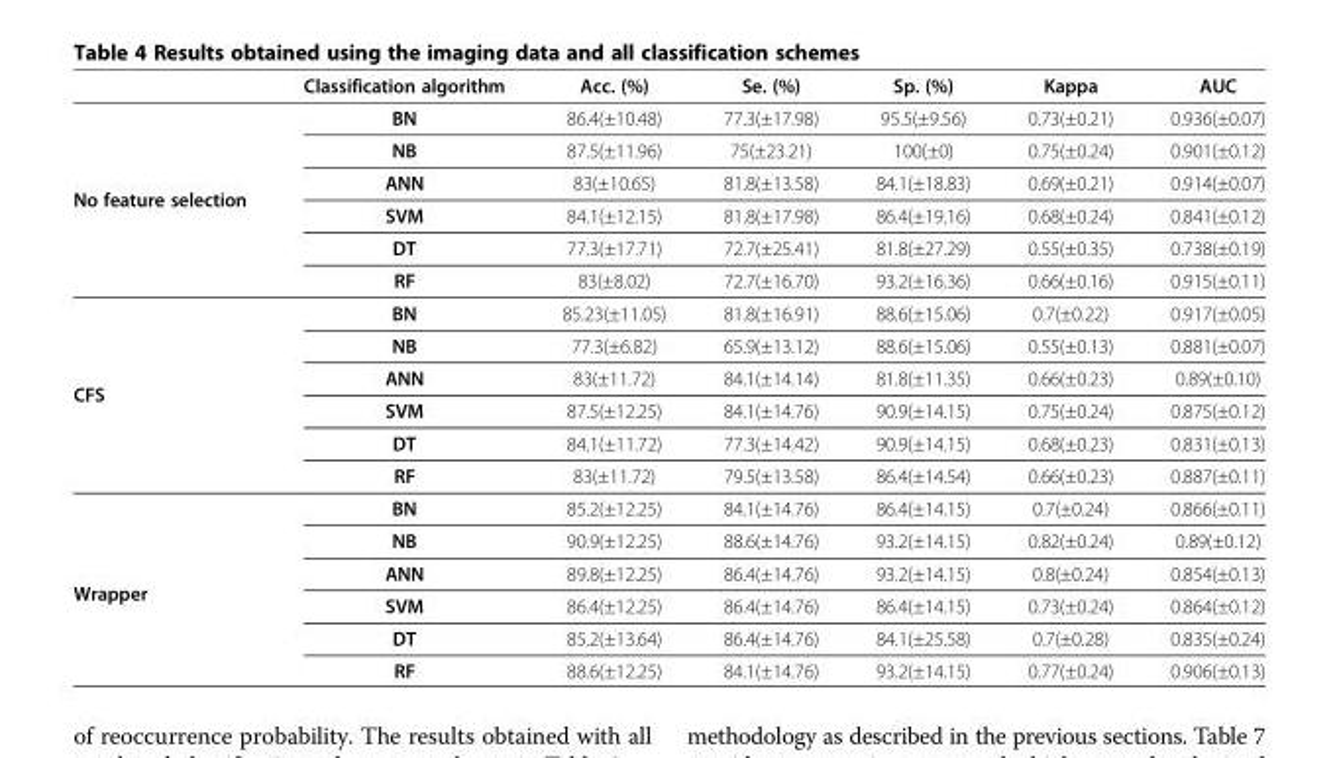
<table><thead><tr><td></td><td>Classification algorithm</td><td>Acc. (%)</td><td>Se. (%)</td><td>Sp. (%)</td><td>Kappa</td><td>AUC</td></tr></thead><tbody><tr><td rowspan="6">No feature selection</td><td>BN</td><td>86.4(±10.48)</td><td>77.3(±17.98)</td><td>95.5(±9.56)</td><td>0.73(±0.21)</td><td>0.936(±0.07)</td></tr><tr><td>NB</td><td>87.5(±11.96)</td><td>75(±23.21)</td><td>100(±0)</td><td>0.75(±0.24)</td><td>0.901(±0.12)</td></tr><tr><td>ANN</td><td>83(±10.65)</td><td>81.8(±13.58)</td><td>84.1(±18.83)</td><td>0.69(±0.21)</td><td>0.914(±0.07)</td></tr><tr><td>SVM</td><td>84.1(±12.15)</td><td>81.8(±17.98)</td><td>86.4(±19.16)</td><td>0.68(±0.24)</td><td>0.841(±0.12)</td></tr><tr><td>DT</td><td>77.3(±17.71)</td><td>72.7(±25.41)</td><td>81.8(±27.29)</td><td>0.55(±0.35)</td><td>0.738(±0.19)</td></tr><tr><td>RF</td><td>83(±8.02)</td><td>72.7(±16.70)</td><td>93.2(±16.36)</td><td>0.66(±0.16)</td><td>0.915(±0.11)</td></tr><tr><td rowspan="6">CFS</td><td>BN</td><td>85.23(±11.05)</td><td>81.8(±16.91)</td><td>88.6(±15.06)</td><td>0.7(±0.22)</td><td>0.917(±0.05)</td></tr><tr><td>NB</td><td>77.3(±6.82)</td><td>65.9(±13.12)</td><td>88.6(±15.06)</td><td>0.55(±0.13)</td><td>0.881(±0.07)</td></tr><tr><td>ANN</td><td>83(±11.72)</td><td>84.1(±14.14)</td><td>81.8(±11.35)</td><td>0.66(±0.23)</td><td>0.89(±0.10)</td></tr><tr><td>SVM</td><td>87.5(±12.25)</td><td>84.1(±14.76)</td><td>90.9(±14.15)</td><td>0.75(±0.24)</td><td>0.875(±0.12)</td></tr><tr><td>DT</td><td>84.1(±11.72)</td><td>77.3(±14.42)</td><td>90.9(±14.15)</td><td>0.68(±0.23)</td><td>0.831(±0.13)</td></tr><tr><td>RF</td><td>83(±11.72)</td><td>79.5(±13.58)</td><td>86.4(±14.54)</td><td>0.66(±0.23)</td><td>0.887(±0.11)</td></tr><tr><td rowspan="6">Wrapper</td><td>BN</td><td>85.2(±12.25)</td><td>84.1(±14.76)</td><td>86.4(±14.15)</td><td>0.7(±0.24)</td><td>0.866(±0.11)</td></tr><tr><td>NB</td><td>90.9(±12.25)</td><td>88.6(±14.76)</td><td>93.2(±14.15)</td><td>0.82(±0.24)</td><td>0.89(±0.12)</td></tr><tr><td>ANN</td><td>89.8(±12.25)</td><td>86.4(±14.76)</td><td>93.2(±14.15)</td><td>0.8(±0.24)</td><td>0.854(±0.13)</td></tr><tr><td>SVM</td><td>86.4(±12.25)</td><td>86.4(±14.76)</td><td>86.4(±14.15)</td><td>0.73(±0.24)</td><td>0.864(±0.12)</td></tr><tr><td>DT</td><td>85.2(±13.64)</td><td>86.4(±14.76)</td><td>84.1(±25.58)</td><td>0.7(±0.28)</td><td>0.835(±0.24)</td></tr><tr><td>RF</td><td>88.6(±12.25)</td><td>84.1(±14.76)</td><td>93.2(±14.15)</td><td>0.77(±0.24)</td><td>0.906(±0.13)</td></tr></tbody></table>